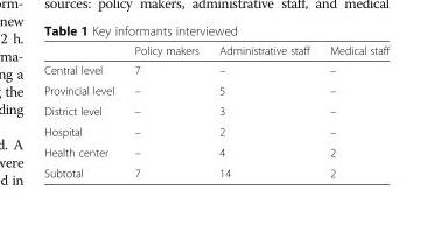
<table><thead><tr><td></td><td>Policy makers</td><td>Administrative staff</td><td>Medical staff</td></tr></thead><tbody><tr><td>Central level</td><td>7</td><td>–</td><td>–</td></tr><tr><td>Provincial level</td><td>–</td><td>5</td><td>–</td></tr><tr><td>District level</td><td>–</td><td>3</td><td>–</td></tr><tr><td>Hospital</td><td>–</td><td>2</td><td>–</td></tr><tr><td>Health center</td><td>–</td><td>4</td><td>2</td></tr><tr><td>Subtotal</td><td>7</td><td>14</td><td>2</td></tr></tbody></table>